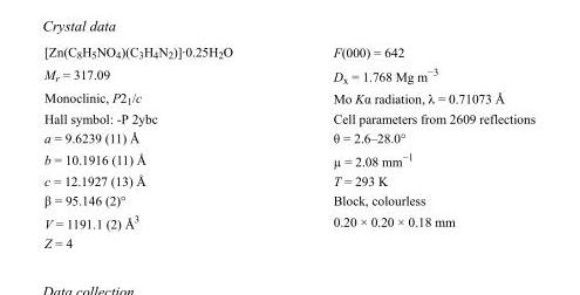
<table><tbody><tr><td>[Zn(C<sub>8</sub>H<sub>5</sub>NO<sub>4</sub>)(C<sub>3</sub>H<sub>4</sub>N<sub>2</sub>)]·0.25H<sub>2</sub>O</td><td>F(000) = 642</td></tr><tr><td>M<sub>r</sub> = 317.09</td><td>D<sub>x</sub> = 1.768 Mg m<sup>−3</sup></td></tr><tr><td>Monoclinic, P2<sub>1</sub>/c</td><td>Mo Kα radiation, λ = 0.71073 Å</td></tr><tr><td>Hall symbol: -P 2ybc</td><td>Cell parameters from 2609 reflections</td></tr><tr><td>a = 9.6239 (11) Å</td><td>θ = 2.6–28.0°</td></tr><tr><td>b = 10.1916 (11) Å</td><td>µ = 2.08 mm<sup>−1</sup></td></tr><tr><td>c = 12.1927 (13) Å</td><td>T = 293 K</td></tr><tr><td>β = 95.146 (2)°</td><td>Block, colourless</td></tr><tr><td>V = 1191.1 (2) Å<sup>3</sup></td><td>0.20 × 0.20 × 0.18 mm</td></tr><tr><td>Z = 4</td><td></td></tr></tbody></table>